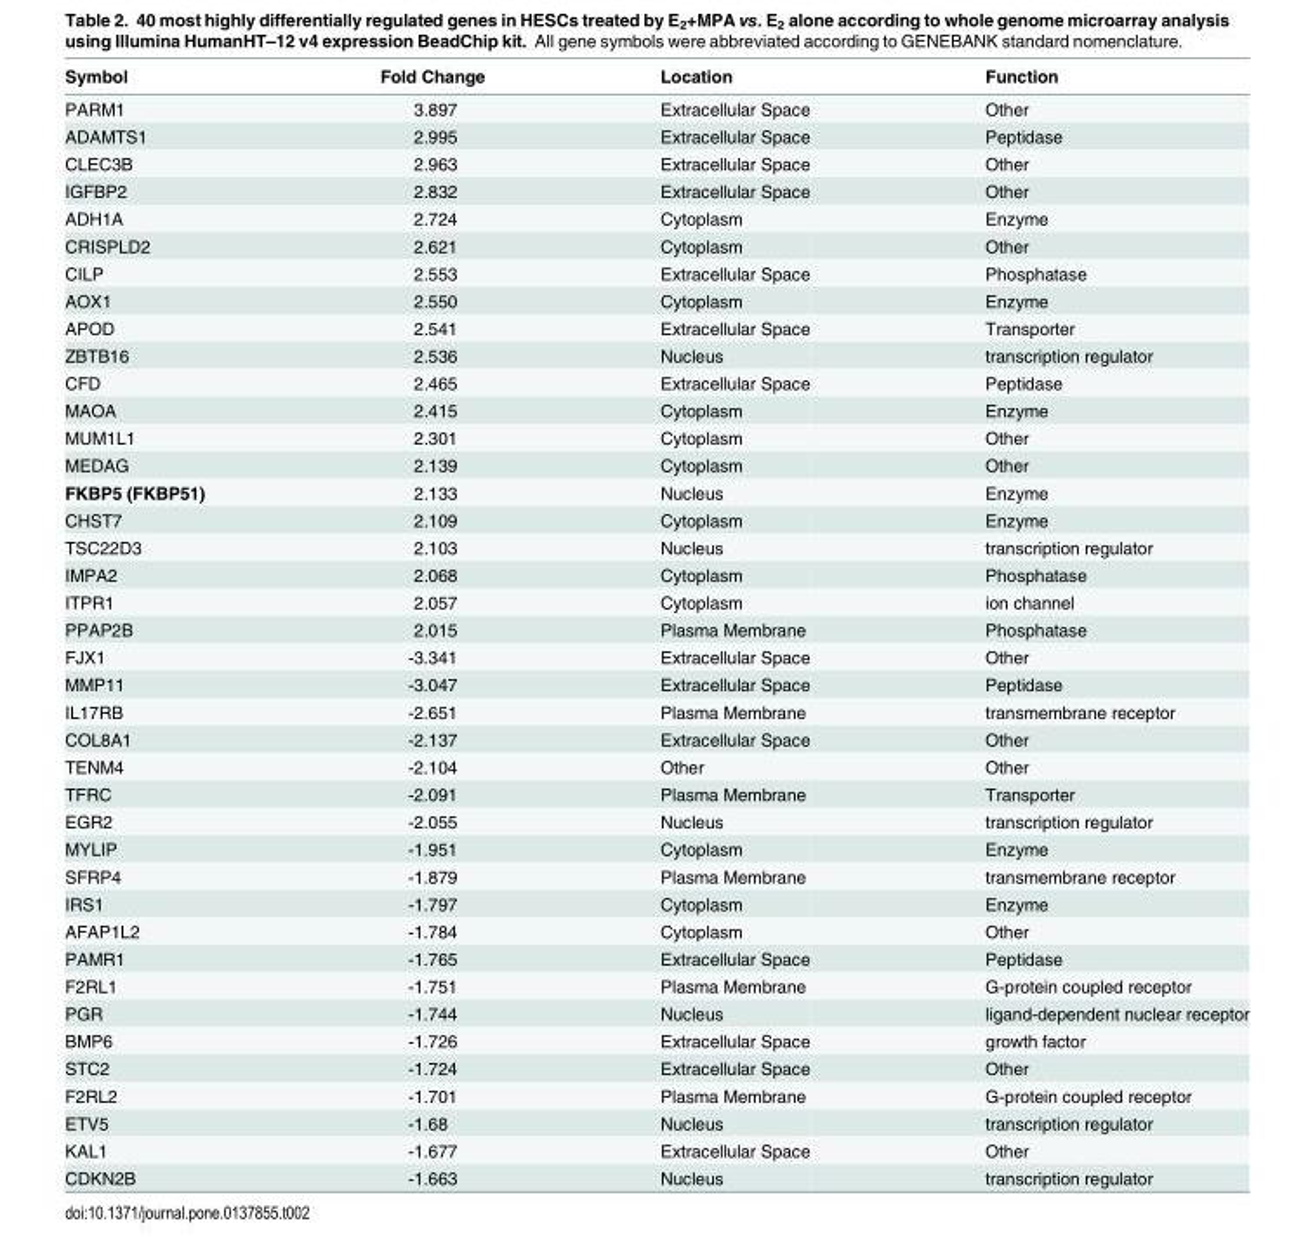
<table><thead><tr><td>Symbol</td><td>Fold Change</td><td>Location</td><td>Function</td></tr></thead><tbody><tr><td>PARM1</td><td>3.897</td><td>Extracellular Space</td><td>Other</td></tr><tr><td>ADAMTS1</td><td>2.995</td><td>Extracellular Space</td><td>Peptidase</td></tr><tr><td>CLEC3B</td><td>2.963</td><td>Extracellular Space</td><td>Other</td></tr><tr><td>IGFBP2</td><td>2.832</td><td>Extracellular Space</td><td>Other</td></tr><tr><td>ADH1A</td><td>2.724</td><td>Cytoplasm</td><td>Enzyme</td></tr><tr><td>CRISPLD2</td><td>2.621</td><td>Cytoplasm</td><td>Other</td></tr><tr><td>CILP</td><td>2.553</td><td>Extracellular Space</td><td>Phosphatase</td></tr><tr><td>AOX1</td><td>2.550</td><td>Cytoplasm</td><td>Enzyme</td></tr><tr><td>APOD</td><td>2.541</td><td>Extracellular Space</td><td>Transporter</td></tr><tr><td>ZBTB16</td><td>2.536</td><td>Nucleus</td><td>transcription regulator</td></tr><tr><td>CFD</td><td>2.465</td><td>Extracellular Space</td><td>Peptidase</td></tr><tr><td>MAOA</td><td>2.415</td><td>Cytoplasm</td><td>Enzyme</td></tr><tr><td>MUM1L1</td><td>2.301</td><td>Cytoplasm</td><td>Other</td></tr><tr><td>MEDAG</td><td>2.139</td><td>Cytoplasm</td><td>Other</td></tr><tr><td>FKBP5 (FKBP51)</td><td>2.133</td><td>Nucleus</td><td>Enzyme</td></tr><tr><td>CHST7</td><td>2.109</td><td>Cytoplasm</td><td>Enzyme</td></tr><tr><td>TSC22D3</td><td>2.103</td><td>Nucleus</td><td>transcription regulator</td></tr><tr><td>IMPA2</td><td>2.068</td><td>Cytoplasm</td><td>Phosphatase</td></tr><tr><td>ITPR1</td><td>2.057</td><td>Cytoplasm</td><td>ion channel</td></tr><tr><td>PPAP2B</td><td>2.015</td><td>Plasma Membrane</td><td>Phosphatase</td></tr><tr><td>FJX1</td><td>-3.341</td><td>Extracellular Space</td><td>Other</td></tr><tr><td>MMP11</td><td>-3.047</td><td>Extracellular Space</td><td>Peptidase</td></tr><tr><td>IL17RB</td><td>-2.651</td><td>Plasma Membrane</td><td>transmembrane receptor</td></tr><tr><td>COL8A1</td><td>-2.137</td><td>Extracellular Space</td><td>Other</td></tr><tr><td>TENM4</td><td>-2.104</td><td>Other</td><td>Other</td></tr><tr><td>TFRC</td><td>-2.091</td><td>Plasma Membrane</td><td>Transporter</td></tr><tr><td>EGR2</td><td>-2.055</td><td>Nucleus</td><td>transcription regulator</td></tr><tr><td>MYLIP</td><td>-1.951</td><td>Cytoplasm</td><td>Enzyme</td></tr><tr><td>SFRP4</td><td>-1.879</td><td>Plasma Membrane</td><td>transmembrane receptor</td></tr><tr><td>IRS1</td><td>-1.797</td><td>Cytoplasm</td><td>Enzyme</td></tr><tr><td>AFAP1L2</td><td>-1.784</td><td>Cytoplasm</td><td>Other</td></tr><tr><td>PAMR1</td><td>-1.765</td><td>Extracellular Space</td><td>Peptidase</td></tr><tr><td>F2RL1</td><td>-1.751</td><td>Plasma Membrane</td><td>G-protein coupled receptor</td></tr><tr><td>PGR</td><td>-1.744</td><td>Nucleus</td><td>ligand-dependent nuclear receptor</td></tr><tr><td>BMP6</td><td>-1.726</td><td>Extracellular Space</td><td>growth factor</td></tr><tr><td>STC2</td><td>-1.724</td><td>Extracellular Space</td><td>Other</td></tr><tr><td>F2RL2</td><td>-1.701</td><td>Plasma Membrane</td><td>G-protein coupled receptor</td></tr><tr><td>ETV5</td><td>-1.68</td><td>Nucleus</td><td>transcription regulator</td></tr><tr><td>KAL1</td><td>-1.677</td><td>Extracellular Space</td><td>Other</td></tr><tr><td>CDKN2B</td><td>-1.663</td><td>Nucleus</td><td>transcription regulator</td></tr></tbody></table>